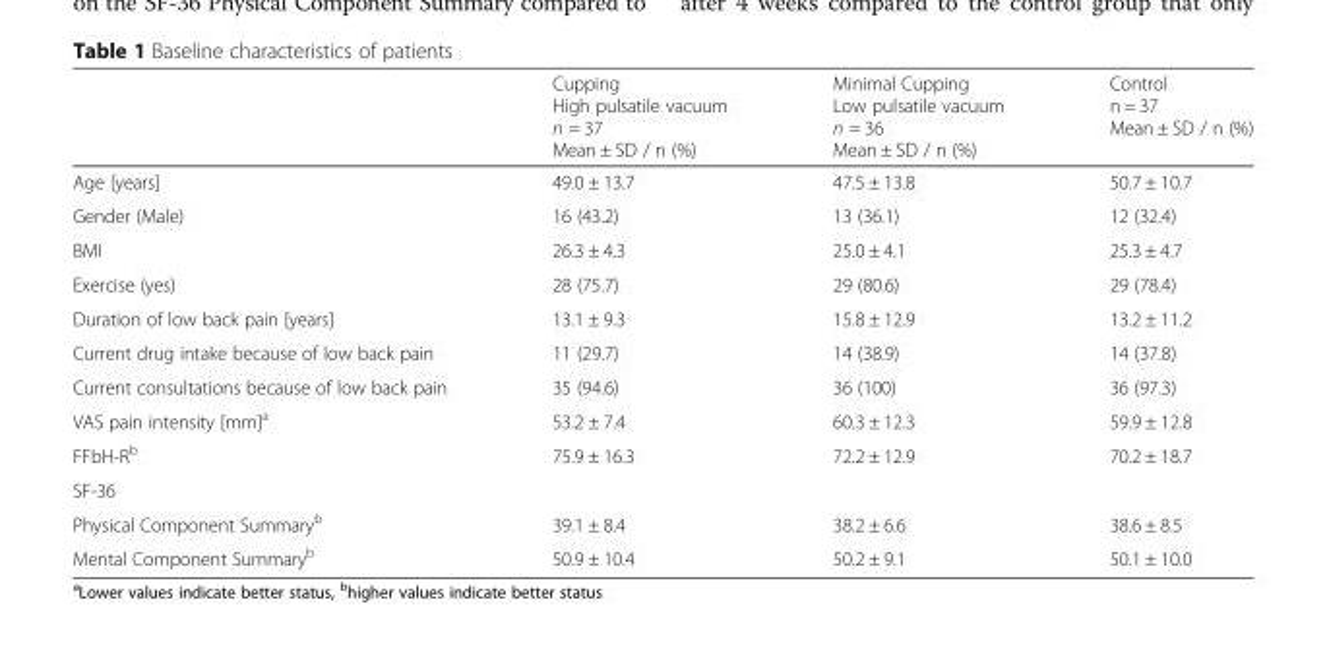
<table><thead><tr><td></td><td>Cupping High pulsatile vacuum n = 37 Mean ± SD / n (%)</td><td>Minimal Cupping Low pulsatile vacuum n = 36 Mean ± SD / n (%)</td><td>Control n = 37 Mean ± SD / n (%)</td></tr></thead><tbody><tr><td>Age [years]</td><td>49.0 ± 13.7</td><td>47.5 ± 13.8</td><td>50.7 ± 10.7</td></tr><tr><td>Gender (Male)</td><td>16 (43.2)</td><td>13 (36.1)</td><td>12 (32.4)</td></tr><tr><td>BMI</td><td>26.3 ± 4.3</td><td>25.0 ± 4.1</td><td>25.3 ± 4.7</td></tr><tr><td>Exercise (yes)</td><td>28 (75.7)</td><td>29 (80.6)</td><td>29 (78.4)</td></tr><tr><td>Duration of low back pain [years]</td><td>13.1 ± 9.3</td><td>15.8 ± 12.9</td><td>13.2 ± 11.2</td></tr><tr><td>Current drug intake because of low back pain</td><td>11 (29.7)</td><td>14 (38.9)</td><td>14 (37.8)</td></tr><tr><td>Current consultations because of low back pain</td><td>35 (94.6)</td><td>36 (100)</td><td>36 (97.3)</td></tr><tr><td>VAS pain intensity [mm]<sup>a</sup></td><td>53.2 ± 7.4</td><td>60.3 ± 12.3</td><td>59.9 ± 12.8</td></tr><tr><td>FFbH-R<sup>b</sup></td><td>75.9 ± 16.3</td><td>72.2 ± 12.9</td><td>70.2 ± 18.7</td></tr><tr><td colspan="4">SF-36</td></tr><tr><td>Physical Component Summary<sup>b</sup></td><td>39.1 ± 8.4</td><td>38.2 ± 6.6</td><td>38.6 ± 8.5</td></tr><tr><td>Mental Component Summary<sup>b</sup></td><td>50.9 ± 10.4</td><td>50.2 ± 9.1</td><td>50.1 ± 10.0</td></tr></tbody></table>